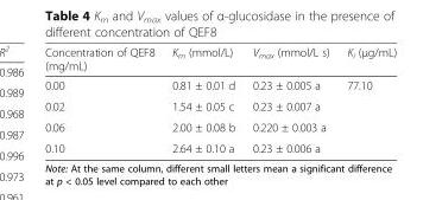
<table><thead><tr><td>Concentration of QEF8 (mg/mL)</td><td>K<sub>m</sub> (mmol/L)</td><td>V<sub>max</sub> (mmol/L s)</td><td>K<sub>i</sub> (μg/mL)</td></tr></thead><tbody><tr><td>0.00</td><td>0.81 ± 0.01 d</td><td>0.23 ± 0.005 a</td><td rowspan="4">77.10</td></tr><tr><td>0.02</td><td>1.54 ± 0.05 c</td><td>0.23 ± 0.007 a</td></tr><tr><td>0.06</td><td>2.00 ± 0.08 b</td><td>0.220 ± 0.003 a</td></tr><tr><td>0.10</td><td>2.64 ± 0.10 a</td><td>0.23 ± 0.006 a</td></tr></tbody></table>